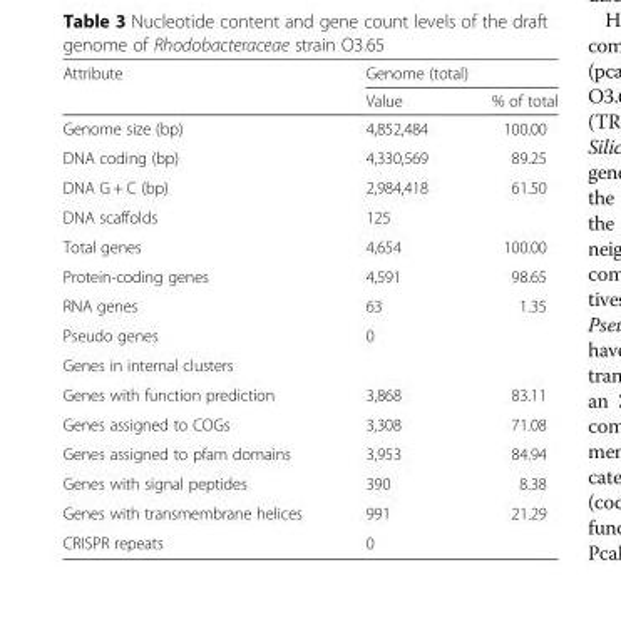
<table><thead><tr><td rowspan="2">Attribute</td><td colspan="2">Genome (total)</td></tr><tr><td>Value</td><td>% of total</td></tr></thead><tbody><tr><td>Genome size (bp)</td><td>4,852,484</td><td>100.00</td></tr><tr><td>DNA coding (bp)</td><td>4,330,569</td><td>89.25</td></tr><tr><td>DNA G + C (bp)</td><td>2,984,418</td><td rowspan="2">61.50</td></tr><tr><td>DNA scaffolds</td><td>125</td></tr><tr><td>Total genes</td><td>4,654</td><td>100.00</td></tr><tr><td>Protein-coding genes</td><td>4,591</td><td>98.65</td></tr><tr><td>RNA genes</td><td>63</td><td>1.35</td></tr><tr><td>Pseudo genes</td><td>0</td><td></td></tr><tr><td colspan="3">Genes in internal clusters</td></tr><tr><td>Genes with function prediction</td><td>3,868</td><td>83.11</td></tr><tr><td>Genes assigned to COGs</td><td>3,308</td><td>71.08</td></tr><tr><td>Genes assigned to pfam domains</td><td>3,953</td><td>84.94</td></tr><tr><td>Genes with signal peptides</td><td>390</td><td>8.38</td></tr><tr><td>Genes with transmembrane helices</td><td>991</td><td>21.29</td></tr><tr><td>CRISPR repeats</td><td>0</td><td></td></tr></tbody></table>